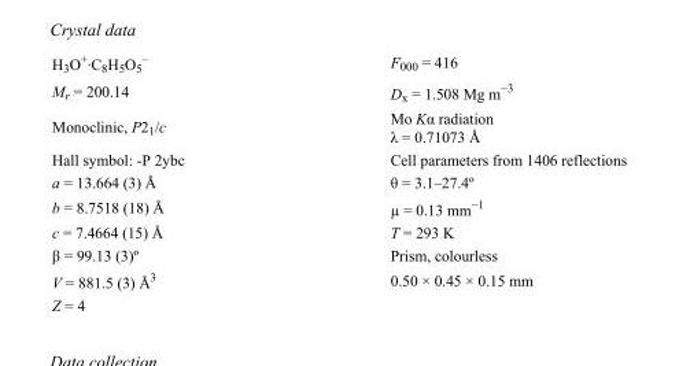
<table><tbody><tr><td>H<sub>3</sub>O<sup>+</sup>·C<sub>8</sub>H<sub>5</sub>O<sub>5</sub> <sup>–</sup></td><td>F000 = 416</td></tr><tr><td>M<sub>r</sub> = 200.14</td><td>D<sub>x</sub> = 1.508 Mg m<sup>−3</sup></td></tr><tr><td>Monoclinic, P2<sub>1</sub>/c</td><td>Mo Kα radiation λ = 0.71073 Å</td></tr><tr><td>Hall symbol: -P 2ybc</td><td>Cell parameters from 1406 reflections</td></tr><tr><td>a = 13.664 (3) Å</td><td>θ = 3.1–27.4º</td></tr><tr><td>b = 8.7518 (18) Å</td><td>µ = 0.13 mm<sup>−1</sup></td></tr><tr><td>c = 7.4664 (15) Å</td><td>T = 293 K</td></tr><tr><td>β = 99.13 (3)º</td><td>Prism, colourless</td></tr><tr><td>V = 881.5 (3) Å<sup>3</sup></td><td>0.50 × 0.45 × 0.15 mm</td></tr><tr><td>Z = 4</td><td></td></tr></tbody></table>